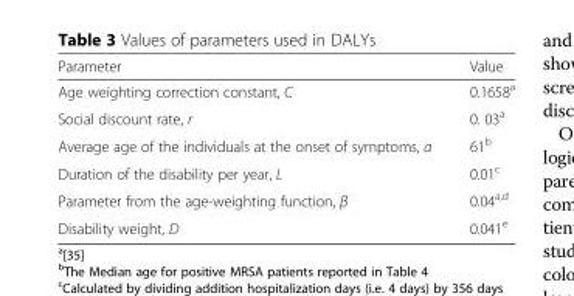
<table><thead><tr><td>Parameter</td><td>Value</td></tr></thead><tbody><tr><td>Age weighting correction constant, C</td><td>0.1658<sup>a</sup></td></tr><tr><td>Social discount rate, r</td><td>0. 03<sup>a</sup></td></tr><tr><td>Average age of the individuals at the onset of symptoms, a</td><td>61<sup>b</sup></td></tr><tr><td>Duration of the disability per year, L</td><td>0.01<sup>c</sup></td></tr><tr><td>Parameter from the age-weighting function, β</td><td>0.04<sup>a,d</sup></td></tr><tr><td>Disability weight, D</td><td>0.041<sup>e</sup></td></tr></tbody></table>